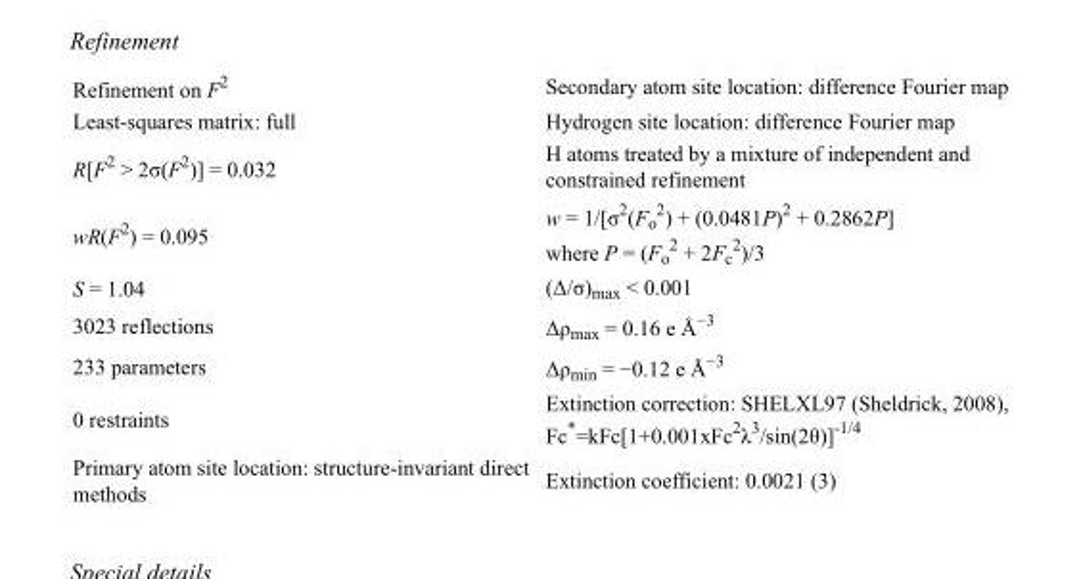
<table><tbody><tr><td>Refinement on F<sup>2</sup></td><td>Secondary atom site location: difference Fourier map</td></tr><tr><td>Least-squares matrix: full</td><td>Hydrogen site location: difference Fourier map</td></tr><tr><td>R[F<sup>2</sup> &gt; 2σ(F<sup>2</sup>)] = 0.032</td><td>H atoms treated by a mixture of independent and constrained refinement</td></tr><tr><td>wR(F<sup>2</sup>) = 0.095</td><td>w = 1/[σ<sup>2</sup>(F<sub>o</sub> <sup>2</sup>) + (0.0481P)<sup>2</sup> + 0.2862P] where P = (F<sub>o</sub> <sup>2</sup> + 2F<sub>c</sub> <sup>2</sup>)/3</td></tr><tr><td>S = 1.04</td><td>(Δ/σ)<sub>max</sub> &lt; 0.001</td></tr><tr><td>3023 reflections</td><td>Δρ<sub>max</sub> = 0.16 e Å<sup>−3</sup></td></tr><tr><td>233 parameters</td><td>Δρmin = −0.12 e Å−3</td></tr><tr><td>0 restraints</td><td>Extinction correction: SHELXL97 (Sheldrick, 2008), Fc*=kFc[1+0.001xFc<sup>2</sup>λ<sup>3</sup>/sin(2θ)]<sup>-1/4</sup></td></tr><tr><td>Primary atom site location: structure-invariant direct methods</td><td>Extinction coefficient: 0.0021 (3)</td></tr></tbody></table>